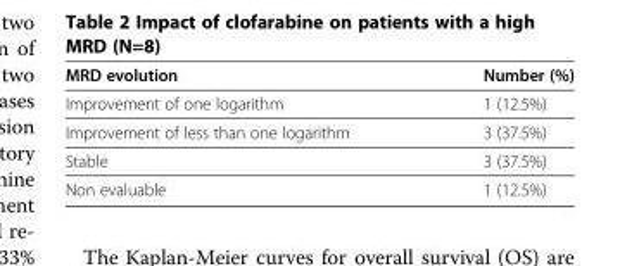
<table><thead><tr><td>MRD evolution</td><td>Number (%)</td></tr></thead><tbody><tr><td>Improvement of one logarithm</td><td>1 (12.5%)</td></tr><tr><td>Improvement of less than one logarithm</td><td>3 (37.5%)</td></tr><tr><td>Stable</td><td>3 (37.5%)</td></tr><tr><td>Non evaluable</td><td>1 (12.5%)</td></tr></tbody></table>